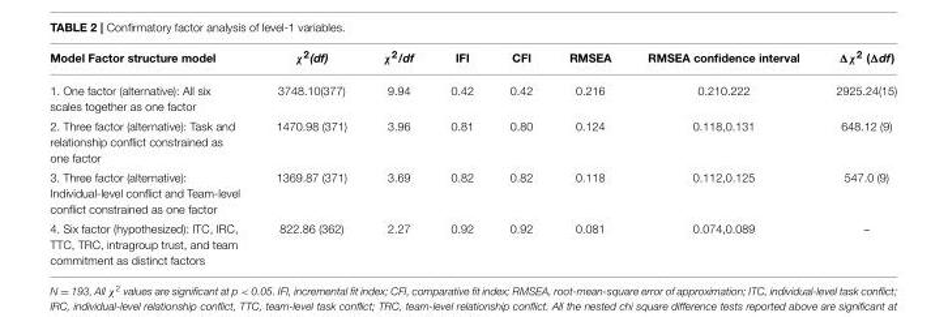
<table><thead><tr><td>Model Factor structure model</td><td>χ<sup>2</sup>(df)</td><td>χ<sup>2</sup>/df</td><td>IFI</td><td>CFI</td><td>RMSEA</td><td>RMSEA confidence interval</td><td>Δχ<sup>2</sup> (Δdf)</td></tr></thead><tbody><tr><td>1. One factor (alternative): All six scales together as one factor</td><td>3748.10(377)</td><td>9.94</td><td>0.42</td><td>0.42</td><td>0.216</td><td>0.210.222</td><td>2925.24(15)</td></tr><tr><td>2. Three factor (alternative): Task and relationship conflict constrained as one factor</td><td>1470.98 (371)</td><td>3.96</td><td>0.81</td><td>0.80</td><td>0.124</td><td>0.118,0.131</td><td>648.12 (9)</td></tr><tr><td>3. Three factor (alternative): Individual-level conflict and Team-level conflict constrained as one factor</td><td>1369.87 (371)</td><td>3.69</td><td>0.82</td><td>0.82</td><td>0.118</td><td>0.112,0.125</td><td>547.0 (9)</td></tr><tr><td>4. Six factor (hypothesized): ITC, IRC, TTC, TRC, intragroup trust, and team commitment as distinct factors</td><td>822.86 (362)</td><td>2.27</td><td>0.92</td><td>0.92</td><td>0.081</td><td>0.074,0.089</td><td>–</td></tr></tbody></table>